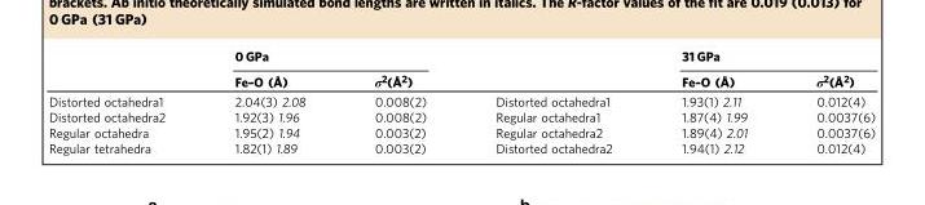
<table><thead><tr><td rowspan="2"></td><td colspan="2">0 GPa</td><td rowspan="2"></td><td colspan="2">31 GPa</td></tr><tr><td>Fe–O (Å)</td><td>σ<sup>2</sup>(Å<sup>2</sup>)</td><td>Fe–O (Å)</td><td>σ<sup>2</sup>(Å<sup>2</sup>)</td></tr></thead><tbody><tr><td>Distorted octahedra1</td><td>2.04(3) 2.08</td><td>0.008(2)</td><td>Distorted octahedra1</td><td>1.93(1) 2.11</td><td>0.012(4)</td></tr><tr><td>Distorted octahedra2</td><td>1.92(3) 1.96</td><td>0.008(2)</td><td>Regular octahedra1</td><td>1.87(4) 1.99</td><td>0.0037(6)</td></tr><tr><td>Regular octahedra</td><td>1.95(2) 1.94</td><td>0.003(2)</td><td>Regular octahedra2</td><td>1.89(4) 2.01</td><td>0.0037(6)</td></tr><tr><td>Regular tetrahedra</td><td>1.82(1) 1.89</td><td>0.003(2)</td><td>Distorted octahedra2</td><td>1.94(1) 2.12</td><td>0.012(4)</td></tr></tbody></table>